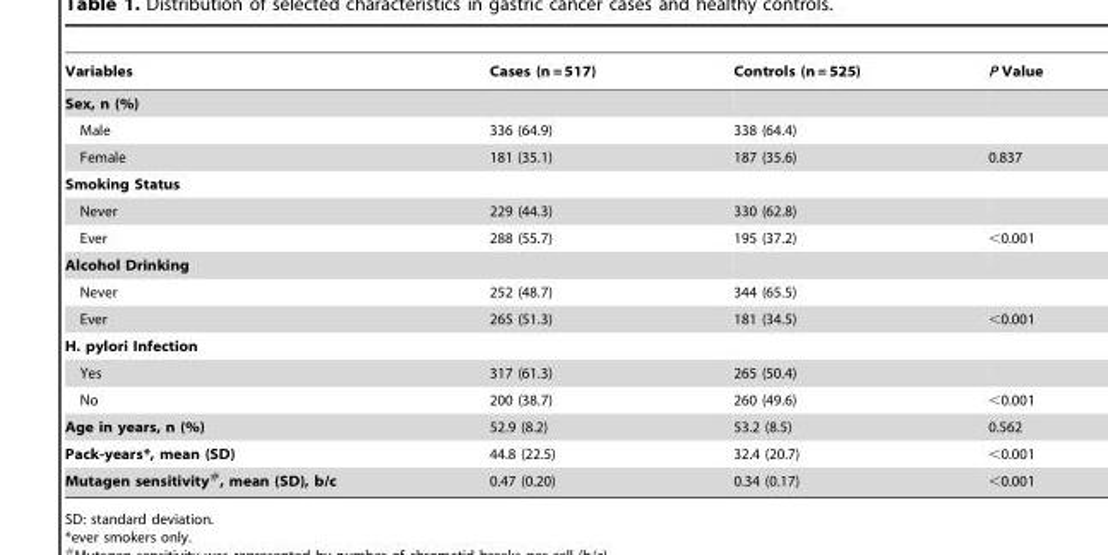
<table><thead><tr><td>Variables</td><td>Cases (n = 517)</td><td>Controls (n = 525)</td><td>P Value</td></tr></thead><tbody><tr><td colspan="4">Sex, n (%)</td></tr><tr><td>Male</td><td>336 (64.9)</td><td>338 (64.4)</td><td></td></tr><tr><td>Female</td><td>181 (35.1)</td><td>187 (35.6)</td><td>0.837</td></tr><tr><td colspan="4">Smoking Status</td></tr><tr><td>Never</td><td>229 (44.3)</td><td>330 (62.8)</td><td></td></tr><tr><td>Ever</td><td>288 (55.7)</td><td>195 (37.2)</td><td>&lt;0.001</td></tr><tr><td colspan="4">Alcohol Drinking</td></tr><tr><td>Never</td><td>252 (48.7)</td><td>344 (65.5)</td><td></td></tr><tr><td>Ever</td><td>265 (51.3)</td><td>181 (34.5)</td><td>&lt;0.001</td></tr><tr><td colspan="4">H. pylori Infection</td></tr><tr><td>Yes</td><td>317 (61.3)</td><td>265 (50.4)</td><td></td></tr><tr><td>No</td><td>200 (38.7)</td><td>260 (49.6)</td><td>&lt;0.001</td></tr><tr><td>Age in years, n (%)</td><td>52.9 (8.2)</td><td>53.2 (8.5)</td><td>0.562</td></tr><tr><td>Pack-years*, mean (SD)</td><td>44.8 (22.5)</td><td>32.4 (20.7)</td><td>&lt;0.001</td></tr><tr><td>Mutagen sensitivity#, mean (SD), b/c</td><td>0.47 (0.20)</td><td>0.34 (0.17)</td><td>&lt;0.001</td></tr></tbody></table>